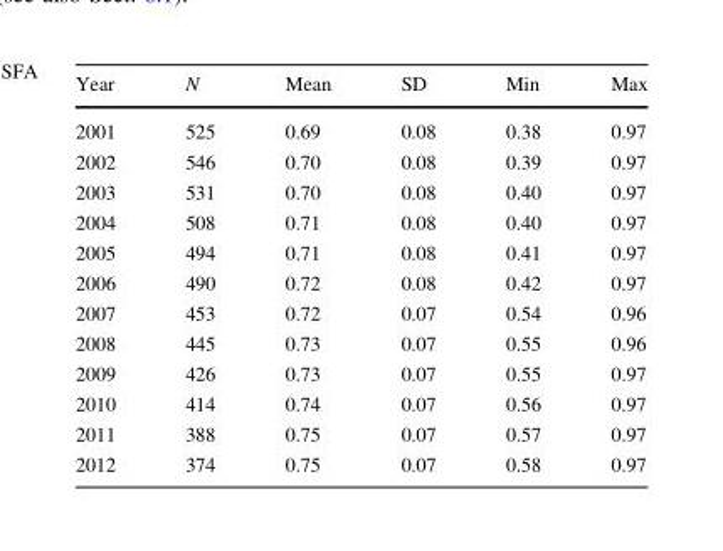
<table><thead><tr><td>Year</td><td>N</td><td>Mean</td><td>SD</td><td>Min</td><td>Max</td></tr></thead><tbody><tr><td>2001</td><td>525</td><td>0.69</td><td>0.08</td><td>0.38</td><td>0.97</td></tr><tr><td>2002</td><td>546</td><td>0.70</td><td>0.08</td><td>0.39</td><td>0.97</td></tr><tr><td>2003</td><td>531</td><td>0.70</td><td>0.08</td><td>0.40</td><td>0.97</td></tr><tr><td>2004</td><td>508</td><td>0.71</td><td>0.08</td><td>0.40</td><td>0.97</td></tr><tr><td>2005</td><td>494</td><td>0.71</td><td>0.08</td><td>0.41</td><td>0.97</td></tr><tr><td>2006</td><td>490</td><td>0.72</td><td>0.08</td><td>0.42</td><td>0.97</td></tr><tr><td>2007</td><td>453</td><td>0.72</td><td>0.07</td><td>0.54</td><td>0.96</td></tr><tr><td>2008</td><td>445</td><td>0.73</td><td>0.07</td><td>0.55</td><td>0.96</td></tr><tr><td>2009</td><td>426</td><td>0.73</td><td>0.07</td><td>0.55</td><td>0.97</td></tr><tr><td>2010</td><td>414</td><td>0.74</td><td>0.07</td><td>0.56</td><td>0.97</td></tr><tr><td>2011</td><td>388</td><td>0.75</td><td>0.07</td><td>0.57</td><td>0.97</td></tr><tr><td>2012</td><td>374</td><td>0.75</td><td>0.07</td><td>0.58</td><td>0.97</td></tr></tbody></table>